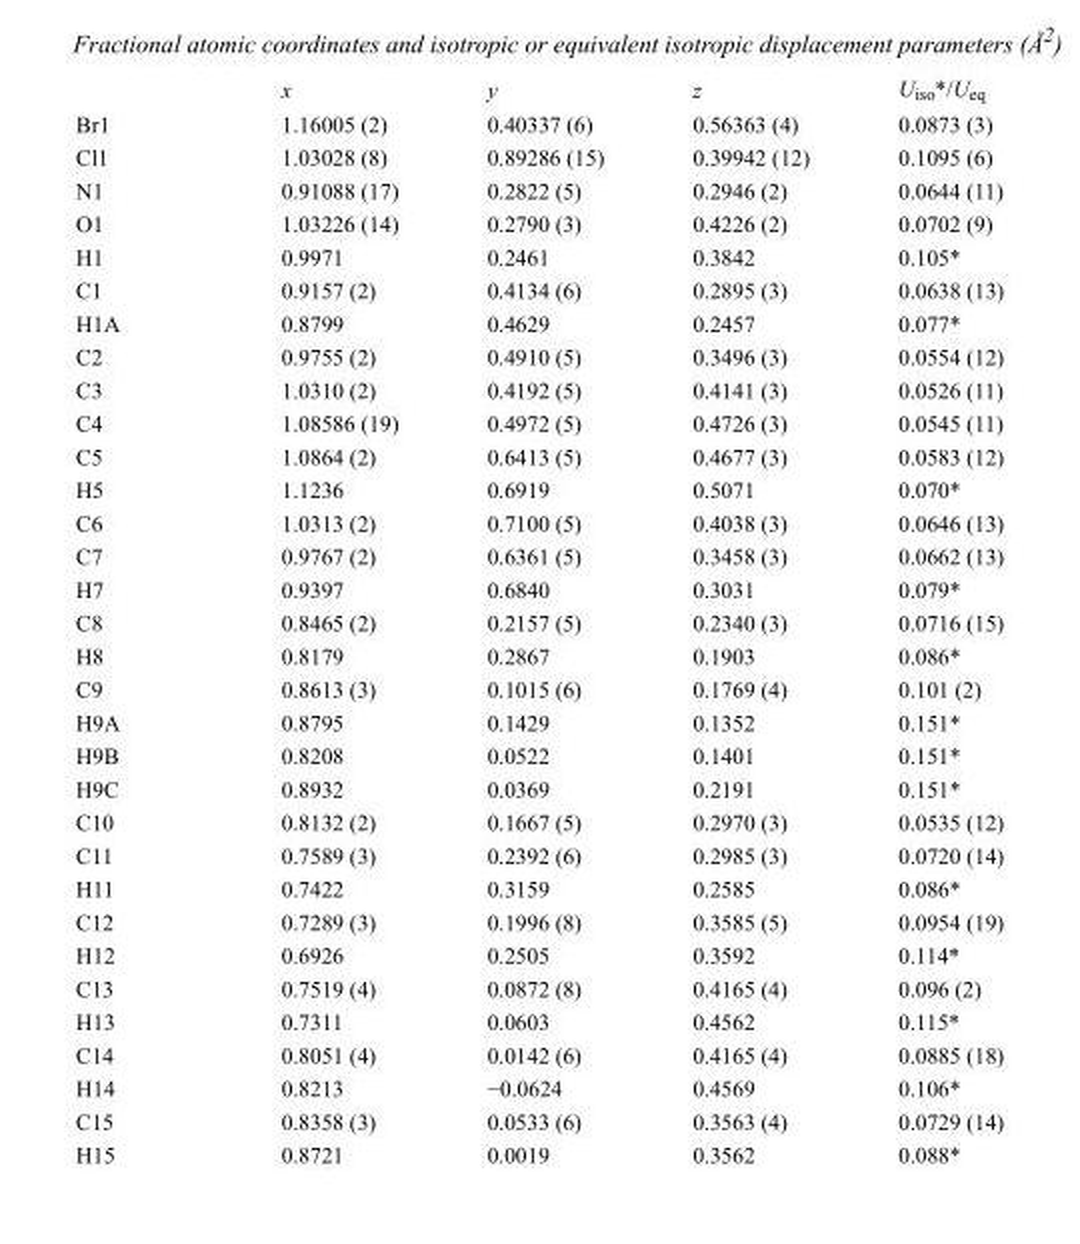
<table><thead><tr><td></td><td>x</td><td>y</td><td>z</td><td>U<sub>iso</sub>*/U<sub>eq</sub></td></tr></thead><tbody><tr><td>Br1</td><td>1.16005 (2)</td><td>0.40337 (6)</td><td>0.56363 (4)</td><td>0.0873 (3)</td></tr><tr><td>Cl1</td><td>1.03028 (8)</td><td>0.89286 (15)</td><td>0.39942 (12)</td><td>0.1095 (6)</td></tr><tr><td>N1</td><td>0.91088 (17)</td><td>0.2822 (5)</td><td>0.2946 (2)</td><td>0.0644 (11)</td></tr><tr><td>O1</td><td>1.03226 (14)</td><td>0.2790 (3)</td><td>0.4226 (2)</td><td>0.0702 (9)</td></tr><tr><td>H1</td><td>0.9971</td><td>0.2461</td><td>0.3842</td><td>0.105*</td></tr><tr><td>C1</td><td>0.9157 (2)</td><td>0.4134 (6)</td><td>0.2895 (3)</td><td>0.0638 (13)</td></tr><tr><td>H1A</td><td>0.8799</td><td>0.4629</td><td>0.2457</td><td>0.077*</td></tr><tr><td>C2</td><td>0.9755 (2)</td><td>0.4910 (5)</td><td>0.3496 (3)</td><td>0.0554 (12)</td></tr><tr><td>C3</td><td>1.0310 (2)</td><td>0.4192 (5)</td><td>0.4141 (3)</td><td>0.0526 (11)</td></tr><tr><td>C4</td><td>1.08586 (19)</td><td>0.4972 (5)</td><td>0.4726 (3)</td><td>0.0545 (11)</td></tr><tr><td>C5</td><td>1.0864 (2)</td><td>0.6413 (5)</td><td>0.4677 (3)</td><td>0.0583 (12)</td></tr><tr><td>H5</td><td>1.1236</td><td>0.6919</td><td>0.5071</td><td>0.070*</td></tr><tr><td>C6</td><td>1.0313 (2)</td><td>0.7100 (5)</td><td>0.4038 (3)</td><td>0.0646 (13)</td></tr><tr><td>C7</td><td>0.9767 (2)</td><td>0.6361 (5)</td><td>0.3458 (3)</td><td>0.0662 (13)</td></tr><tr><td>H7</td><td>0.9397</td><td>0.6840</td><td>0.3031</td><td>0.079*</td></tr><tr><td>C8</td><td>0.8465 (2)</td><td>0.2157 (5)</td><td>0.2340 (3)</td><td>0.0716 (15)</td></tr><tr><td>H8</td><td>0.8179</td><td>0.2867</td><td>0.1903</td><td>0.086*</td></tr><tr><td>C9</td><td>0.8613 (3)</td><td>0.1015 (6)</td><td>0.1769 (4)</td><td>0.101 (2)</td></tr><tr><td>H9A</td><td>0.8795</td><td>0.1429</td><td>0.1352</td><td>0.151*</td></tr><tr><td>H9B</td><td>0.8208</td><td>0.0522</td><td>0.1401</td><td>0.151*</td></tr><tr><td>H9C</td><td>0.8932</td><td>0.0369</td><td>0.2191</td><td>0.151*</td></tr><tr><td>C10</td><td>0.8132 (2)</td><td>0.1667 (5)</td><td>0.2970 (3)</td><td>0.0535 (12)</td></tr><tr><td>C11</td><td>0.7589 (3)</td><td>0.2392 (6)</td><td>0.2985 (3)</td><td>0.0720 (14)</td></tr><tr><td>H11</td><td>0.7422</td><td>0.3159</td><td>0.2585</td><td>0.086*</td></tr><tr><td>C12</td><td>0.7289 (3)</td><td>0.1996 (8)</td><td>0.3585 (5)</td><td>0.0954 (19)</td></tr><tr><td>H12</td><td>0.6926</td><td>0.2505</td><td>0.3592</td><td>0.114*</td></tr><tr><td>C13</td><td>0.7519 (4)</td><td>0.0872 (8)</td><td>0.4165 (4)</td><td>0.096 (2)</td></tr><tr><td>H13</td><td>0.7311</td><td>0.0603</td><td>0.4562</td><td>0.115*</td></tr><tr><td>C14</td><td>0.8051 (4)</td><td>0.0142 (6)</td><td>0.4165 (4)</td><td>0.0885 (18)</td></tr><tr><td>H14</td><td>0.8213</td><td>−0.0624</td><td>0.4569</td><td>0.106*</td></tr><tr><td>C15</td><td>0.8358 (3)</td><td>0.0533 (6)</td><td>0.3563 (4)</td><td>0.0729 (14)</td></tr><tr><td>H15</td><td>0.8721</td><td>0.0019</td><td>0.3562</td><td>0.088*</td></tr></tbody></table>